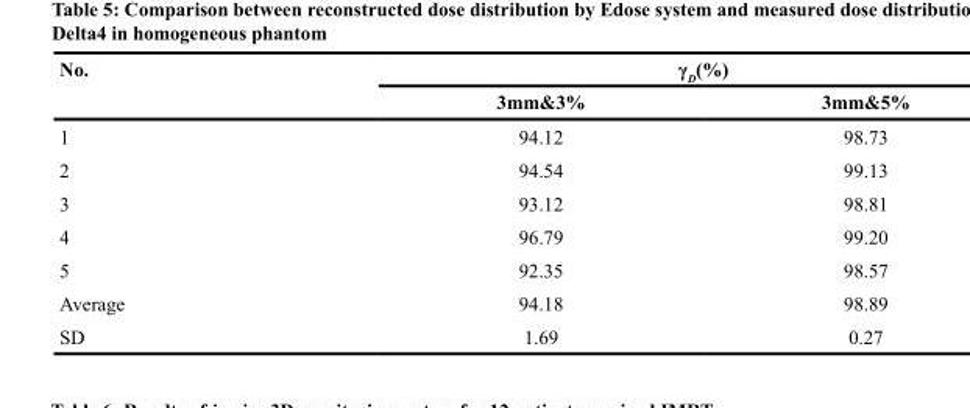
<table><thead><tr><td rowspan="2">No.</td><td colspan="2">γ<sub>D</sub>(%)</td></tr><tr><td>3mm&amp;3%</td><td>3mm&amp;5%</td></tr></thead><tbody><tr><td>1</td><td>94.12</td><td>98.73</td></tr><tr><td>2</td><td>94.54</td><td>99.13</td></tr><tr><td>3</td><td>93.12</td><td>98.81</td></tr><tr><td>4</td><td>96.79</td><td>99.20</td></tr><tr><td>5</td><td>92.35</td><td>98.57</td></tr><tr><td>Average</td><td>94.18</td><td>98.89</td></tr><tr><td>SD</td><td>1.69</td><td>0.27</td></tr></tbody></table>